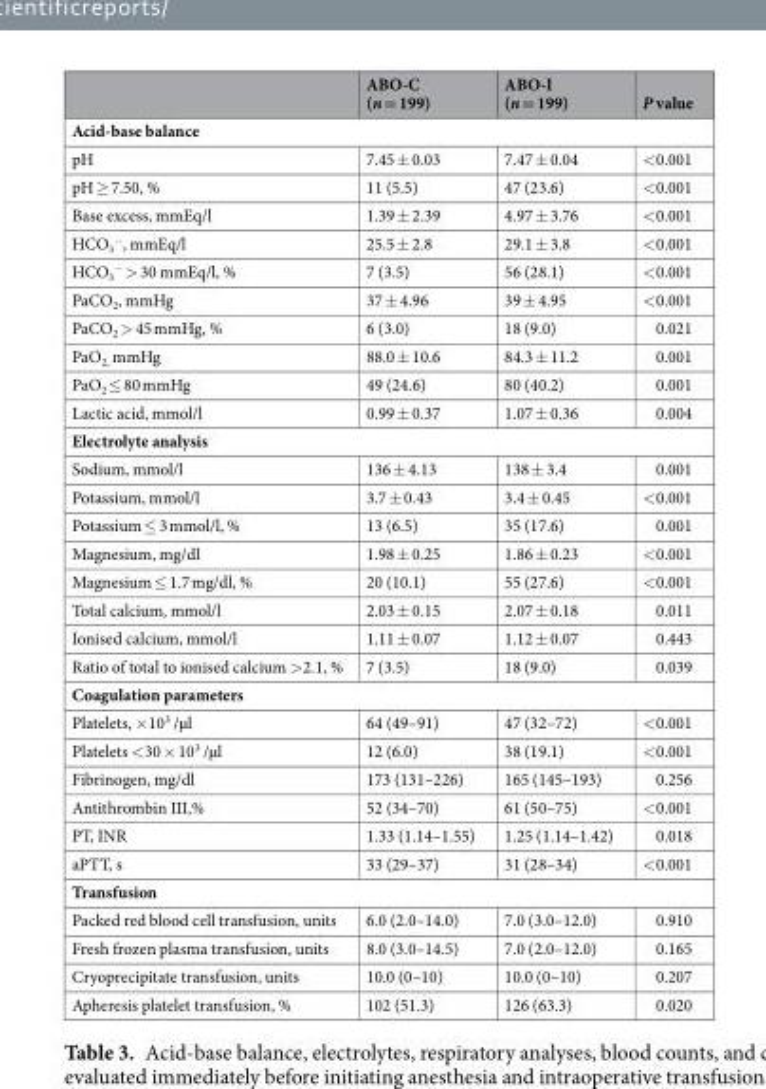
<table><thead><tr><td></td><td>ABO-C (n = 199)</td><td>ABO-I (n = 199)</td><td>P value</td></tr></thead><tbody><tr><td colspan="4">Acid-base balance</td></tr><tr><td>pH</td><td>7.45 ± 0.03</td><td>7.47 ± 0.04</td><td>&lt;0.001</td></tr><tr><td>pH ≥ 7.50, %</td><td>11 (5.5)</td><td>47 (23.6)</td><td>&lt;0.001</td></tr><tr><td>Base excess, mmEq/l</td><td>1.39 ± 2.39</td><td>4.97 ± 3.76</td><td>&lt;0.001</td></tr><tr><td>HCO<sub>3</sub> <sup>−</sup>, mmEq/l</td><td>25.5 ± 2.8</td><td>29.1 ± 3.8</td><td>&lt;0.001</td></tr><tr><td>HCO<sub>3</sub> <sup>−</sup> &gt; 30 mmEq/l, %</td><td>7 (3.5)</td><td>56 (28.1)</td><td>&lt;0.001</td></tr><tr><td>PaCO<sub>2</sub>, mmHg</td><td>37 ± 4.96</td><td>39 ± 4.95</td><td>&lt;0.001</td></tr><tr><td>PaCO<sub>2</sub> &gt; 45 mmHg, %</td><td>6 (3.0)</td><td>18 (9.0)</td><td>0.021</td></tr><tr><td>PaO<sub>2,</sub> mmHg</td><td>88.0 ± 10.6</td><td>84.3 ± 11.2</td><td>0.001</td></tr><tr><td>PaO<sub>2</sub> ≤ 80 mmHg</td><td>49 (24.6)</td><td>80 (40.2)</td><td>0.001</td></tr><tr><td>Lactic acid, mmol/l</td><td>0.99 ± 0.37</td><td>1.07 ± 0.36</td><td>0.004</td></tr><tr><td colspan="4">Electrolyte analysis</td></tr><tr><td>Sodium, mmol/l</td><td>136 ± 4.13</td><td>138 ± 3.4</td><td>0.001</td></tr><tr><td>Potassium, mmol/l</td><td>3.7 ± 0.43</td><td>3.4 ± 0.45</td><td>&lt;0.001</td></tr><tr><td>Potassium ≤ 3 mmol/l, %</td><td>13 (6.5)</td><td>35 (17.6)</td><td>0.001</td></tr><tr><td>Magnesium, mg/dl</td><td>1.98 ± 0.25</td><td>1.86 ± 0.23</td><td>&lt;0.001</td></tr><tr><td>Magnesium ≤ 1.7 mg/dl, %</td><td>20 (10.1)</td><td>55 (27.6)</td><td>&lt;0.001</td></tr><tr><td>Total calcium, mmol/l</td><td>2.03 ± 0.15</td><td>2.07 ± 0.18</td><td>0.011</td></tr><tr><td>Ionised calcium, mmol/l</td><td>1.11 ± 0.07</td><td>1.12 ± 0.07</td><td>0.443</td></tr><tr><td>Ratio of total to ionised calcium &gt;2.1, %</td><td>7 (3.5)</td><td>18 (9.0)</td><td>0.039</td></tr><tr><td colspan="4">Coagulation parameters</td></tr><tr><td>Platelets, ×10<sup>3</sup> /µl</td><td>64 (49–91)</td><td>47 (32–72)</td><td>&lt;0.001</td></tr><tr><td>Platelets &lt;30 × 10<sup>3</sup> /µl</td><td>12 (6.0)</td><td>38 (19.1)</td><td>&lt;0.001</td></tr><tr><td>Fibrinogen, mg/dl</td><td>173 (131–226)</td><td>165 (145–193)</td><td>0.256</td></tr><tr><td>Antithrombin III,%</td><td>52 (34–70)</td><td>61 (50–75)</td><td>&lt;0.001</td></tr><tr><td>PT, INR</td><td>1.33 (1.14–1.55)</td><td>1.25 (1.14–1.42)</td><td>0.018</td></tr><tr><td>aPTT, s</td><td>33 (29–37)</td><td>31 (28–34)</td><td>&lt;0.001</td></tr><tr><td colspan="4">Transfusion</td></tr><tr><td>Packed red blood cell transfusion, units</td><td>6.0 (2.0–14.0)</td><td>7.0 (3.0–12.0)</td><td>0.910</td></tr><tr><td>Fresh frozen plasma transfusion, units</td><td>8.0 (3.0–14.5)</td><td>7.0 (2.0–12.0)</td><td>0.165</td></tr><tr><td>Cryoprecipitate transfusion, units</td><td>10.0 (0–10)</td><td>10.0 (0–10)</td><td>0.207</td></tr><tr><td>Apheresis platelet transfusion, %</td><td>102 (51.3)</td><td>126 (63.3)</td><td>0.020</td></tr></tbody></table>